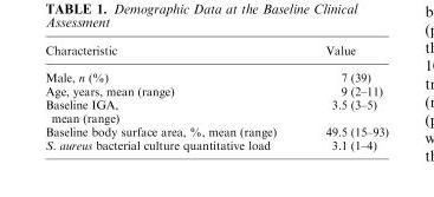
<table><thead><tr><td>Characteristic</td><td>Value</td></tr></thead><tbody><tr><td>Male, n (%)</td><td>7 (39)</td></tr><tr><td>Age, years, mean (range)</td><td>9 (2–11)</td></tr><tr><td>Baseline IGA, mean (range)</td><td>3.5 (3–5)</td></tr><tr><td>Baseline body surface area, %, mean (range)</td><td>49.5 (15–93)</td></tr><tr><td>S. aureus bacterial culture quantitative load</td><td>3.1 (1–4)</td></tr></tbody></table>